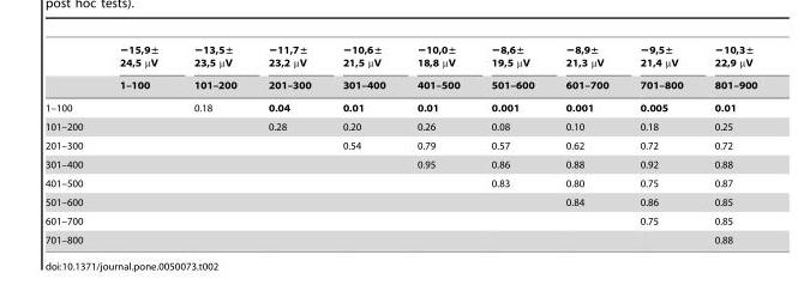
<table><thead><tr><td rowspan="2"></td><td rowspan="2">−15,9± 24,5 µV 1–100</td><td rowspan="2">−13,5± 23,5 µV 101–200</td><td rowspan="2">−11,7± 23,2 µV 201–300</td><td rowspan="2">−10,6± 21,5 µV 301–400</td><td rowspan="2">−10,0± 18,8 µV 401–500</td><td rowspan="2">−8,6± 19,5 µV 501–600</td><td rowspan="2">−8,9± 21,3 µV 601–700</td><td rowspan="2">−9,5± 21,4 µV 701–800</td><td rowspan="2">−10,3± 22,9 µV 801–900</td></tr><tr></tr></thead><tbody><tr><td>1–100</td><td></td><td>0.18</td><td>0.04</td><td>0.01</td><td>0.01</td><td>0.001</td><td>0.001</td><td>0.005</td><td>0.01</td></tr><tr><td>101–200</td><td></td><td></td><td>0.28</td><td>0.20</td><td>0.26</td><td>0.08</td><td>0.10</td><td>0.18</td><td>0.25</td></tr><tr><td>201–300</td><td></td><td></td><td></td><td>0.54</td><td>0.79</td><td>0.57</td><td>0.62</td><td>0.72</td><td>0.72</td></tr><tr><td>301–400</td><td></td><td></td><td></td><td></td><td>0.95</td><td>0.86</td><td>0.88</td><td>0.92</td><td>0.88</td></tr><tr><td>401–500</td><td></td><td></td><td></td><td></td><td></td><td>0.83</td><td>0.80</td><td>0.75</td><td>0.87</td></tr><tr><td>501–600</td><td></td><td></td><td></td><td></td><td></td><td></td><td>0.84</td><td>0.86</td><td>0.85</td></tr><tr><td>601–700</td><td></td><td></td><td></td><td></td><td></td><td></td><td></td><td>0.75</td><td>0.85</td></tr><tr><td>701–800</td><td></td><td></td><td></td><td></td><td></td><td></td><td></td><td></td><td>0.88</td></tr></tbody></table>